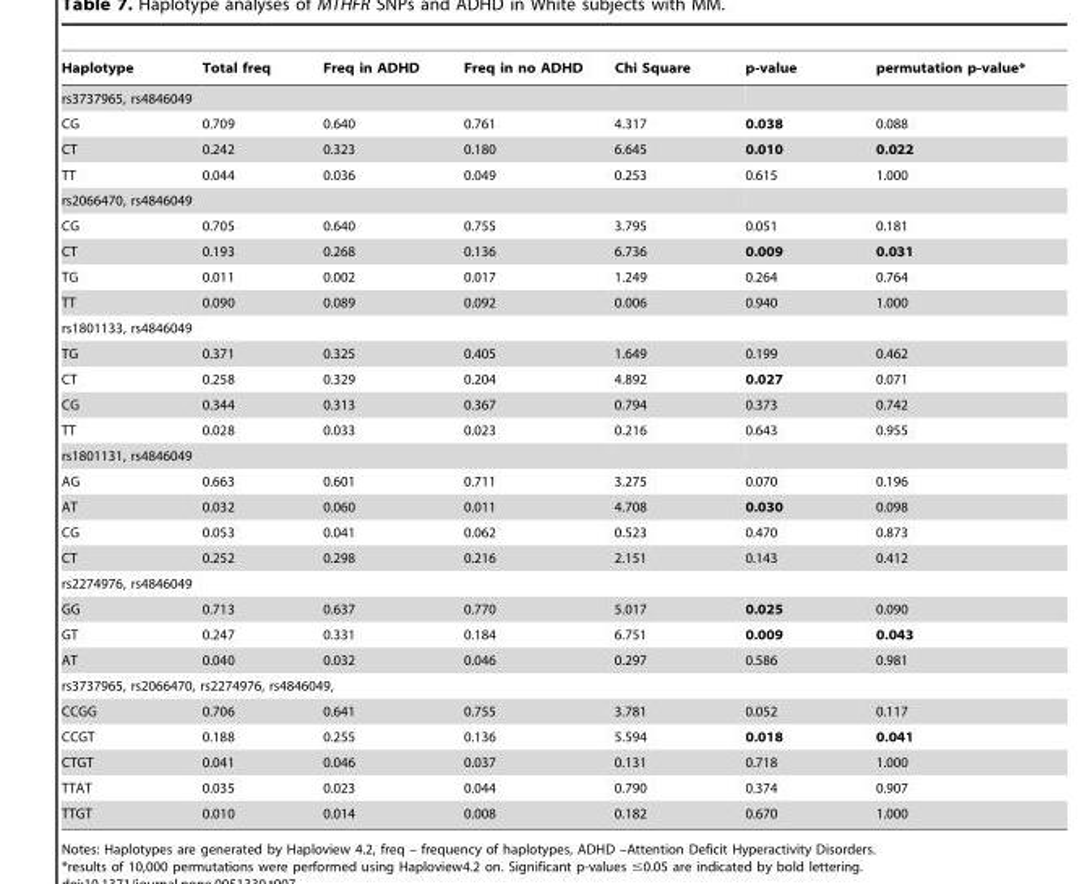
<table><thead><tr><td>Haplotype</td><td>Total freq</td><td>Freq in ADHD</td><td>Freq in no ADHD</td><td>Chi Square</td><td>p-value</td><td>permutation p-value*</td></tr></thead><tbody><tr><td colspan="7">rs3737965, rs4846049</td></tr><tr><td>CG</td><td>0.709</td><td>0.640</td><td>0.761</td><td>4.317</td><td>0.038</td><td>0.088</td></tr><tr><td>CT</td><td>0.242</td><td>0.323</td><td>0.180</td><td>6.645</td><td>0.010</td><td>0.022</td></tr><tr><td>TT</td><td>0.044</td><td>0.036</td><td>0.049</td><td>0.253</td><td>0.615</td><td>1.000</td></tr><tr><td colspan="7">rs2066470, rs4846049</td></tr><tr><td>CG</td><td>0.705</td><td>0.640</td><td>0.755</td><td>3.795</td><td>0.051</td><td>0.181</td></tr><tr><td>CT</td><td>0.193</td><td>0.268</td><td>0.136</td><td>6.736</td><td>0.009</td><td>0.031</td></tr><tr><td>TG</td><td>0.011</td><td>0.002</td><td>0.017</td><td>1.249</td><td>0.264</td><td>0.764</td></tr><tr><td>TT</td><td>0.090</td><td>0.089</td><td>0.092</td><td>0.006</td><td>0.940</td><td>1.000</td></tr><tr><td colspan="7">rs1801133, rs4846049</td></tr><tr><td>TG</td><td>0.371</td><td>0.325</td><td>0.405</td><td>1.649</td><td>0.199</td><td>0.462</td></tr><tr><td>CT</td><td>0.258</td><td>0.329</td><td>0.204</td><td>4.892</td><td>0.027</td><td>0.071</td></tr><tr><td>CG</td><td>0.344</td><td>0.313</td><td>0.367</td><td>0.794</td><td>0.373</td><td>0.742</td></tr><tr><td>TT</td><td>0.028</td><td>0.033</td><td>0.023</td><td>0.216</td><td>0.643</td><td>0.955</td></tr><tr><td colspan="7">rs1801131, rs4846049</td></tr><tr><td>AG</td><td>0.663</td><td>0.601</td><td>0.711</td><td>3.275</td><td>0.070</td><td>0.196</td></tr><tr><td>AT</td><td>0.032</td><td>0.060</td><td>0.011</td><td>4.708</td><td>0.030</td><td>0.098</td></tr><tr><td>CG</td><td>0.053</td><td>0.041</td><td>0.062</td><td>0.523</td><td>0.470</td><td>0.873</td></tr><tr><td>CT</td><td>0.252</td><td>0.298</td><td>0.216</td><td>2.151</td><td>0.143</td><td>0.412</td></tr><tr><td colspan="7">rs2274976, rs4846049</td></tr><tr><td>GG</td><td>0.713</td><td>0.637</td><td>0.770</td><td>5.017</td><td>0.025</td><td>0.090</td></tr><tr><td>GT</td><td>0.247</td><td>0.331</td><td>0.184</td><td>6.751</td><td>0.009</td><td>0.043</td></tr><tr><td>AT</td><td>0.040</td><td>0.032</td><td>0.046</td><td>0.297</td><td>0.586</td><td>0.981</td></tr><tr><td colspan="7">rs3737965, rs2066470, rs2274976, rs4846049,</td></tr><tr><td>CCGG</td><td>0.706</td><td>0.641</td><td>0.755</td><td>3.781</td><td>0.052</td><td>0.117</td></tr><tr><td>CCGT</td><td>0.188</td><td>0.255</td><td>0.136</td><td>5.594</td><td>0.018</td><td>0.041</td></tr><tr><td>CTGT</td><td>0.041</td><td>0.046</td><td>0.037</td><td>0.131</td><td>0.718</td><td>1.000</td></tr><tr><td>TTAT</td><td>0.035</td><td>0.023</td><td>0.044</td><td>0.790</td><td>0.374</td><td>0.907</td></tr><tr><td>TTGT</td><td>0.010</td><td>0.014</td><td>0.008</td><td>0.182</td><td>0.670</td><td>1.000</td></tr></tbody></table>